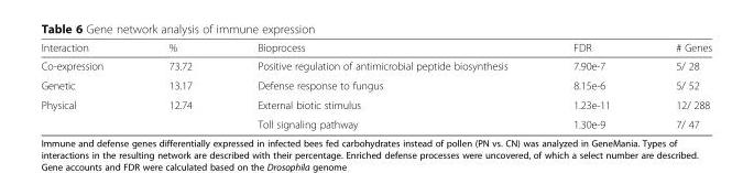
<table><thead><tr><td>Interaction</td><td>%</td><td>Bioprocess</td><td>FDR</td><td># Genes</td></tr></thead><tbody><tr><td>Co-expression</td><td>73.72</td><td>Positive regulation of antimicrobial peptide biosynthesis</td><td>7.90e-7</td><td>5/ 28</td></tr><tr><td>Genetic</td><td>13.17</td><td>Defense response to fungus</td><td>8.15e-6</td><td>5/ 52</td></tr><tr><td rowspan="2">Physical</td><td rowspan="2">12.74</td><td>External biotic stimulus</td><td>1.23e-11</td><td>12/ 288</td></tr><tr><td>Toll signaling pathway</td><td>1.30e-9</td><td>7/ 47</td></tr></tbody></table>